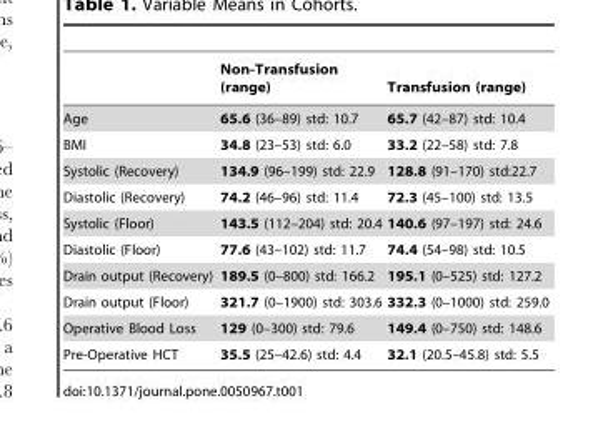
<table><thead><tr><td></td><td>Non-Transfusion (range)</td><td>Transfusion (range)</td></tr></thead><tbody><tr><td>Age</td><td>65.6 (36–89) std: 10.7</td><td>65.7 (42–87) std: 10.4</td></tr><tr><td>BMI</td><td>34.8 (23–53) std: 6.0</td><td>33.2 (22–58) std: 7.8</td></tr><tr><td>Systolic (Recovery)</td><td>134.9 (96–199) std: 22.9</td><td>128.8 (91–170) std:22.7</td></tr><tr><td>Diastolic (Recovery)</td><td>74.2 (46–96) std: 11.4</td><td>72.3 (45–100) std: 13.5</td></tr><tr><td>Systolic (Floor)</td><td>143.5 (112–204) std: 20.4</td><td>140.6 (97–197) std: 24.6</td></tr><tr><td>Diastolic (Floor)</td><td>77.6 (43–102) std: 11.7</td><td>74.4 (54–98) std: 10.5</td></tr><tr><td>Drain output (Recovery)</td><td>189.5 (0–800) std: 166.2</td><td>195.1 (0–525) std: 127.2</td></tr><tr><td>Drain output (Floor)</td><td>321.7 (0–1900) std: 303.6</td><td>332.3 (0–1000) std: 259.0</td></tr><tr><td>Operative Blood Loss</td><td>129 (0–300) std: 79.6</td><td>149.4 (0–750) std: 148.6</td></tr><tr><td>Pre-Operative HCT</td><td>35.5 (25–42.6) std: 4.4</td><td>32.1 (20.5–45.8) std: 5.5</td></tr></tbody></table>